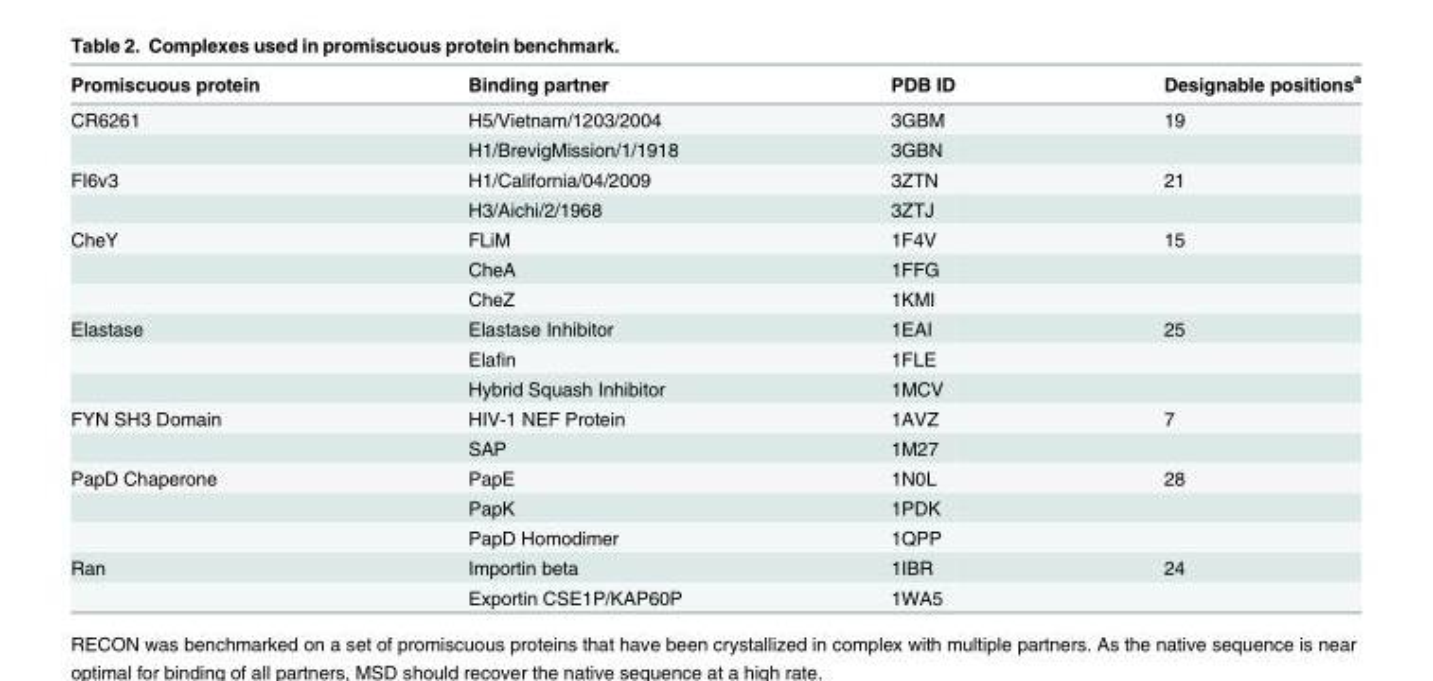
<table><thead><tr><td>Promiscuous protein</td><td>Binding partner</td><td>PDB ID</td><td>Designable positions<sup>a</sup></td></tr></thead><tbody><tr><td rowspan="2">CR6261</td><td>H5/Vietnam/1203/2004</td><td>3GBM</td><td>19</td></tr><tr><td>H1/BrevigMission/1/1918</td><td>3GBN</td><td></td></tr><tr><td rowspan="2">FI6v3</td><td>H1/California/04/2009</td><td>3ZTN</td><td>21</td></tr><tr><td>H3/Aichi/2/1968</td><td>3ZTJ</td><td></td></tr><tr><td rowspan="3">CheY</td><td>FLiM</td><td>1F4V</td><td>15</td></tr><tr><td>CheA</td><td>1FFG</td><td></td></tr><tr><td>CheZ</td><td>1KMI</td><td></td></tr><tr><td rowspan="3">Elastase</td><td>Elastase Inhibitor</td><td>1EAI</td><td>25</td></tr><tr><td>Elafin</td><td>1FLE</td><td></td></tr><tr><td>Hybrid Squash Inhibitor</td><td>1MCV</td><td></td></tr><tr><td rowspan="2">FYN SH3 Domain</td><td>HIV-1 NEF Protein</td><td>1AVZ</td><td>7</td></tr><tr><td>SAP</td><td>1M27</td><td></td></tr><tr><td rowspan="3">PapD Chaperone</td><td>PapE</td><td>1N0L</td><td>28</td></tr><tr><td>PapK</td><td>1PDK</td><td></td></tr><tr><td>PapD Homodimer</td><td>1QPP</td><td></td></tr><tr><td rowspan="2">Ran</td><td>Importin beta</td><td>1IBR</td><td>24</td></tr><tr><td>Exportin CSE1P/KAP60P</td><td>1WA5</td><td></td></tr></tbody></table>